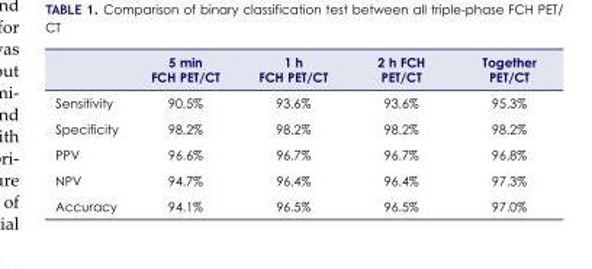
<table><thead><tr><td></td><td>5 min FCH PET/CT</td><td>1 h FCH PET/CT</td><td>2 h FCH PET/CT</td><td>Together PET/CT</td></tr></thead><tbody><tr><td>Sensitivity</td><td>90.5%</td><td>93.6%</td><td>93.6%</td><td>95.3%</td></tr><tr><td>Specificity</td><td>98.2%</td><td>98.2%</td><td>98.2%</td><td>98.2%</td></tr><tr><td>PPV</td><td>96.6%</td><td>96.7%</td><td>96.7%</td><td>96.8%</td></tr><tr><td>NPV</td><td>94.7%</td><td>96.4%</td><td>96.4%</td><td>97.3%</td></tr><tr><td>Accuracy</td><td>94.1%</td><td>96.5%</td><td>96.5%</td><td>97.0%</td></tr></tbody></table>